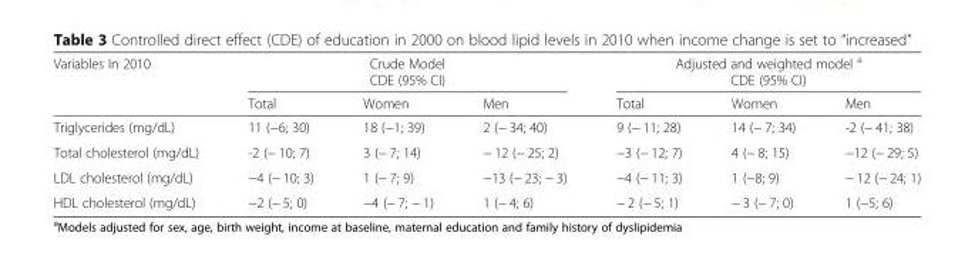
<table><thead><tr><td rowspan="3">Variables In 2010</td><td rowspan="2" colspan="3">Crude Model CDE (95% CI)</td><td rowspan="2" colspan="3">Adjusted and weighted model <sup>a</sup> CDE (95% CI)</td></tr><tr></tr><tr><td>Total</td><td>Women</td><td>Men</td><td>Total</td><td>Women</td><td>Men</td></tr></thead><tbody><tr><td>Triglycerides (mg/dL)</td><td>11 (−6; 30)</td><td>18 (−1; 39)</td><td>2 (− 34; 40)</td><td>9 (− 11; 28)</td><td>14 (− 7; 34)</td><td>-2 (− 41; 38)</td></tr><tr><td>Total cholesterol (mg/dL)</td><td>-2 (− 10; 7)</td><td>3 (− 7; 14)</td><td>− 12 (− 25; 2)</td><td>−3 (− 12; 7)</td><td>4 (− 8; 15)</td><td>−12 (− 29; 5)</td></tr><tr><td>LDL cholesterol (mg/dL)</td><td>−4 (− 10; 3)</td><td>1 (− 7; 9)</td><td>−13 (− 23; − 3)</td><td>−4 (− 11; 3)</td><td>1 (−8; 9)</td><td>− 12 (− 24; 1)</td></tr><tr><td>HDL cholesterol (mg/dL)</td><td>−2 (− 5; 0)</td><td>−4 (− 7; − 1)</td><td>1 (− 4; 6)</td><td>− 2 (− 5; 1)</td><td>− 3 (− 7; 0)</td><td>1 (−5; 6)</td></tr></tbody></table>